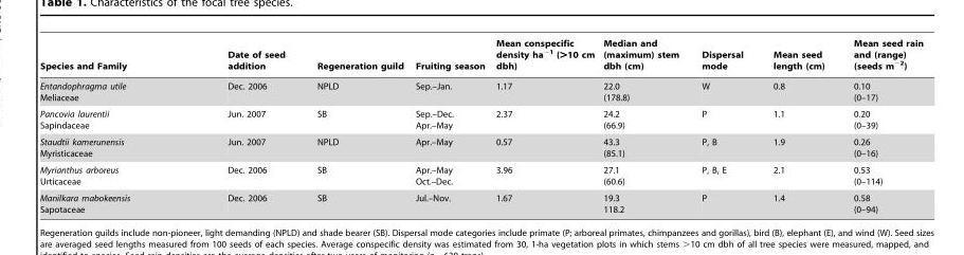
<table><thead><tr><td>Species and Family</td><td>Date of seed addition</td><td>Regeneration guild</td><td>Fruiting season</td><td>Mean conspecific density ha<sup>−1</sup> (&gt;10 cm dbh)</td><td>Median and (maximum) stem dbh (cm)</td><td>Dispersal mode</td><td>Mean seed length (cm)</td><td>Mean seed rain and (range) (seeds m<sup>−2</sup>)</td></tr></thead><tbody><tr><td>Entandophragma utile Meliaceae</td><td>Dec. 2006</td><td>NPLD</td><td>Sep.–Jan.</td><td>1.17</td><td>22.0 (178.8)</td><td>W</td><td>0.8</td><td>0.10 (0–17)</td></tr><tr><td>Pancovia laurentii Sapindaceae</td><td>Jun. 2007</td><td>SB</td><td>Sep.–Dec. Apr.–May</td><td>2.37</td><td>24.2 (66.9)</td><td>P</td><td>1.1</td><td>0.20 (0–39)</td></tr><tr><td>Staudtii kamerunensis Myristicaceae</td><td>Jun. 2007</td><td>NPLD</td><td>Apr.–May</td><td>0.57</td><td>43.3 (85.1)</td><td>P, B</td><td>1.9</td><td>0.26 (0–16)</td></tr><tr><td>Myrianthus arboreus Urticaceae</td><td>Dec. 2006</td><td>SB</td><td>Apr.–May Oct.–Dec.</td><td>3.96</td><td>27.1 (60.6)</td><td>P, B, E</td><td>2.1</td><td>0.53 (0–114)</td></tr><tr><td>Manilkara mabokeensis Sapotaceae</td><td>Dec. 2006</td><td>SB</td><td>Jul.–Nov.</td><td>1.67</td><td>19.3 118.2</td><td>P</td><td>1.4</td><td>0.58 (0–94)</td></tr></tbody></table>